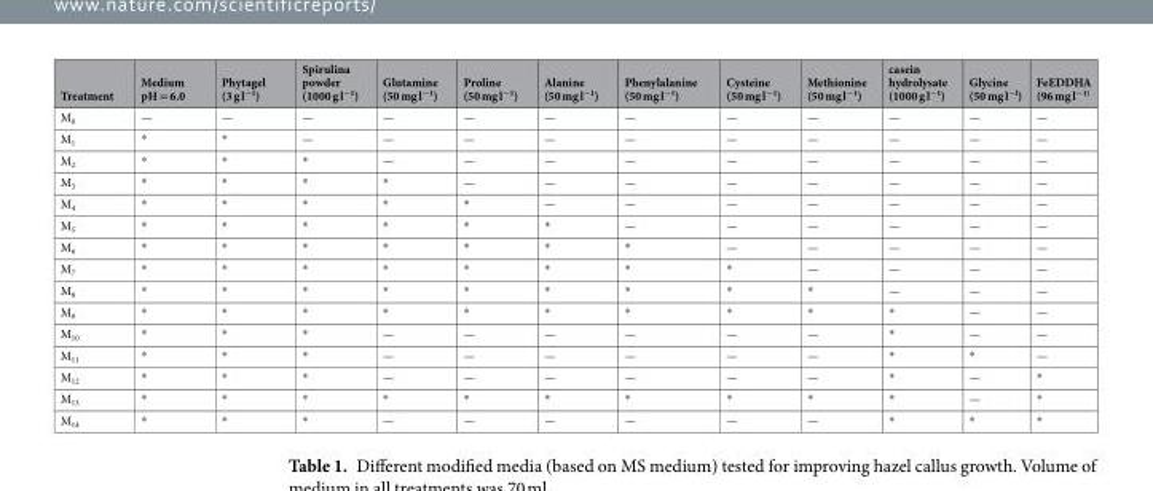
<table><thead><tr><td>Treatment</td><td>Medium pH = 6.0</td><td>Phytagel (3 g l<sup>−1</sup>)</td><td>Spirulina powder (1000 g l<sup>−1</sup>)</td><td>Glutamine (50 mg l<sup>−1</sup>)</td><td>Proline (50 mg l<sup>−1</sup>)</td><td>Alanine (50 mg l<sup>−1</sup>)</td><td>Phenylalanine (50 mg l<sup>−1</sup>)</td><td>Cysteine (50 mg l<sup>−1</sup>)</td><td>Methionine (50 mg l<sup>−1</sup>)</td><td>casein hydrolysate (1000 g l<sup>−1</sup>)</td><td>Glycine (50 mg l<sup>−l</sup>)</td><td>FeEDDHA (96 mg l<sup>−1)</sup></td></tr></thead><tbody><tr><td>M<sub>0</sub></td><td>—</td><td>—</td><td>—</td><td>—</td><td>—</td><td>—</td><td>—</td><td>—</td><td>—</td><td>—</td><td>—</td><td>—</td></tr><tr><td>M<sub>1</sub></td><td>*</td><td>*</td><td>—</td><td>—</td><td>—</td><td>—</td><td>—</td><td>—</td><td>—</td><td>—</td><td>—</td><td>—</td></tr><tr><td>M<sub>2</sub></td><td>*</td><td>*</td><td>*</td><td>—</td><td>—</td><td>—</td><td>—</td><td>—</td><td>—</td><td>—</td><td>—</td><td>—</td></tr><tr><td>M<sub>3</sub></td><td>*</td><td>*</td><td>*</td><td>*</td><td>—</td><td>—</td><td>—</td><td>—</td><td>—</td><td>—</td><td>—</td><td>—</td></tr><tr><td>M<sub>4</sub></td><td>*</td><td>*</td><td>*</td><td>*</td><td>*</td><td>—</td><td>—</td><td>—</td><td>—</td><td>—</td><td>—</td><td>—</td></tr><tr><td>M<sub>5</sub></td><td>*</td><td>*</td><td>*</td><td>*</td><td>*</td><td>*</td><td>—</td><td>—</td><td>—</td><td>—</td><td>—</td><td>—</td></tr><tr><td>M<sub>6</sub></td><td>*</td><td>*</td><td>*</td><td>*</td><td>*</td><td>*</td><td>*</td><td>—</td><td>—</td><td>—</td><td>—</td><td>—</td></tr><tr><td>M<sub>7</sub></td><td>*</td><td>*</td><td>*</td><td>*</td><td>*</td><td>*</td><td>*</td><td>*</td><td>—</td><td>—</td><td>—</td><td>—</td></tr><tr><td>M<sub>8</sub></td><td>*</td><td>*</td><td>*</td><td>*</td><td>*</td><td>*</td><td>*</td><td>*</td><td>*</td><td>—</td><td>—</td><td>—</td></tr><tr><td>M<sub>9</sub></td><td>*</td><td>*</td><td>*</td><td>*</td><td>*</td><td>*</td><td>*</td><td>*</td><td>*</td><td>*</td><td>—</td><td>—</td></tr><tr><td>M<sub>10</sub></td><td>*</td><td>*</td><td>*</td><td>—</td><td>—</td><td>—</td><td>—</td><td>—</td><td>—</td><td>*</td><td>—</td><td>—</td></tr><tr><td>M<sub>11</sub></td><td>*</td><td>*</td><td>*</td><td>—</td><td>—</td><td>—</td><td>—</td><td>—</td><td>—</td><td>*</td><td>*</td><td>—</td></tr><tr><td>M<sub>12</sub></td><td>*</td><td>*</td><td>*</td><td>—</td><td>—</td><td>—</td><td>—</td><td>—</td><td>—</td><td>*</td><td>—</td><td>*</td></tr><tr><td>M<sub>13</sub></td><td>*</td><td>*</td><td>*</td><td>*</td><td>*</td><td>*</td><td>*</td><td>*</td><td>*</td><td>*</td><td>—</td><td>*</td></tr><tr><td>M<sub>14</sub></td><td>*</td><td>*</td><td>*</td><td>—</td><td>—</td><td>—</td><td>—</td><td>—</td><td>—</td><td>*</td><td>*</td><td>*</td></tr></tbody></table>